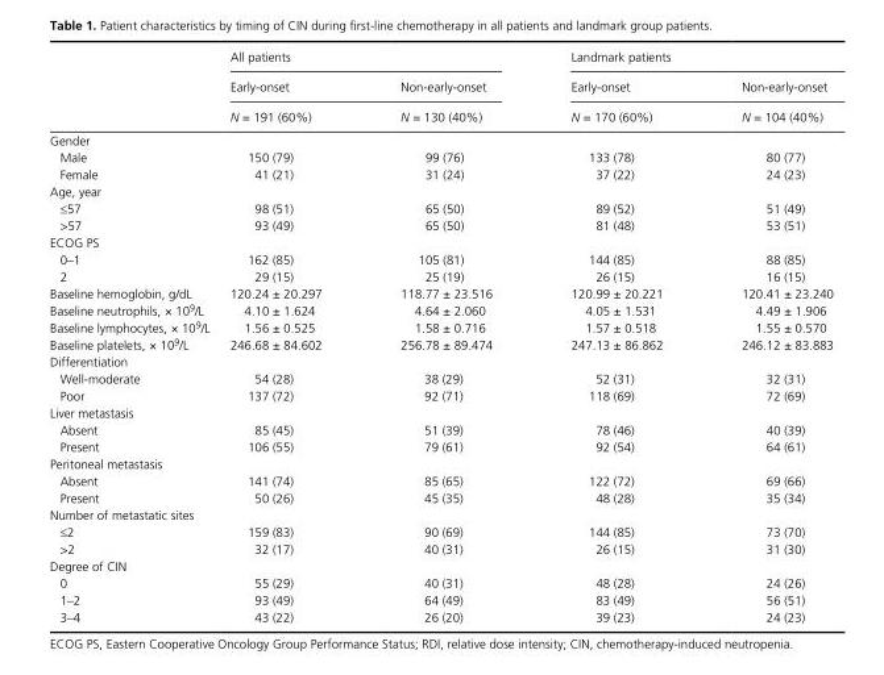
<table><thead><tr><td rowspan="3"></td><td colspan="2">All patients</td><td colspan="2">Landmark patients</td></tr><tr><td rowspan="2">Early- onset N = 191 (60%)</td><td rowspan="2">Non- early- onset N = 130 (40%)</td><td rowspan="2">Early- onset N = 170 (60%)</td><td rowspan="2">Non- early- onset N = 104 (40%)</td></tr><tr></tr></thead><tbody><tr><td colspan="5">Gender</td></tr><tr><td>Male</td><td>150 (79)</td><td>99 (76)</td><td>133 (78)</td><td>80 (77)</td></tr><tr><td>Female</td><td>41 (21)</td><td>31 (24)</td><td>37 (22)</td><td>24 (23)</td></tr><tr><td colspan="5">Age, year</td></tr><tr><td>≤57</td><td>98 (51)</td><td>65 (50)</td><td>89 (52)</td><td>51 (49)</td></tr><tr><td>&gt;57</td><td>93 (49)</td><td>65 (50)</td><td>81 (48)</td><td>53 (51)</td></tr><tr><td colspan="5">ECOG PS</td></tr><tr><td>0–1</td><td>162 (85)</td><td>105 (81)</td><td>144 (85)</td><td>88 (85)</td></tr><tr><td>2</td><td>29 (15)</td><td>25 (19)</td><td>26 (15)</td><td>16 (15)</td></tr><tr><td>Baseline hemoglobin, g/dL</td><td>120.24 ± 20.297</td><td>118.77 ± 23.516</td><td>120.99 ± 20.221</td><td>120.41 ± 23.240</td></tr><tr><td>Baseline neutrophils, × 10<sup>9</sup>/L</td><td>4.10 ± 1.624</td><td>4.64 ± 2.060</td><td>4.05 ± 1.531</td><td>4.49 ± 1.906</td></tr><tr><td>Baseline lymphocytes, × 10<sup>9</sup>/L</td><td>1.56 ± 0.525</td><td>1.58 ± 0.716</td><td>1.57 ± 0.518</td><td>1.55 ± 0.570</td></tr><tr><td>Baseline platelets, × 10<sup>9</sup>/L</td><td>246.68 ± 84.602</td><td>256.78 ± 89.474</td><td>247.13 ± 86.862</td><td>246.12 ± 83.883</td></tr><tr><td colspan="5">Differentiation</td></tr><tr><td>Well- moderate</td><td>54 (28)</td><td>38 (29)</td><td>52 (31)</td><td>32 (31)</td></tr><tr><td>Poor</td><td>137 (72)</td><td>92 (71)</td><td>118 (69)</td><td>72 (69)</td></tr><tr><td colspan="5">Liver metastasis</td></tr><tr><td>Absent</td><td>85 (45)</td><td>51 (39)</td><td>78 (46)</td><td>40 (39)</td></tr><tr><td>Present</td><td>106 (55)</td><td>79 (61)</td><td>92 (54)</td><td>64 (61)</td></tr><tr><td colspan="5">Peritoneal metastasis</td></tr><tr><td>Absent</td><td>141 (74)</td><td>85 (65)</td><td>122 (72)</td><td>69 (66)</td></tr><tr><td>Present</td><td>50 (26)</td><td>45 (35)</td><td>48 (28)</td><td>35 (34)</td></tr><tr><td colspan="5">Number of metastatic sites</td></tr><tr><td>≤2</td><td>159 (83)</td><td>90 (69)</td><td>144 (85)</td><td>73 (70)</td></tr><tr><td>&gt;2</td><td>32 (17)</td><td>40 (31)</td><td>26 (15)</td><td>31 (30)</td></tr><tr><td colspan="5">Degree of CIN</td></tr><tr><td>0</td><td>55 (29)</td><td>40 (31)</td><td>48 (28)</td><td>24 (26)</td></tr><tr><td>1–2</td><td>93 (49)</td><td>64 (49)</td><td>83 (49)</td><td>56 (51)</td></tr><tr><td>3–4</td><td>43 (22)</td><td>26 (20)</td><td>39 (23)</td><td>24 (23)</td></tr></tbody></table>